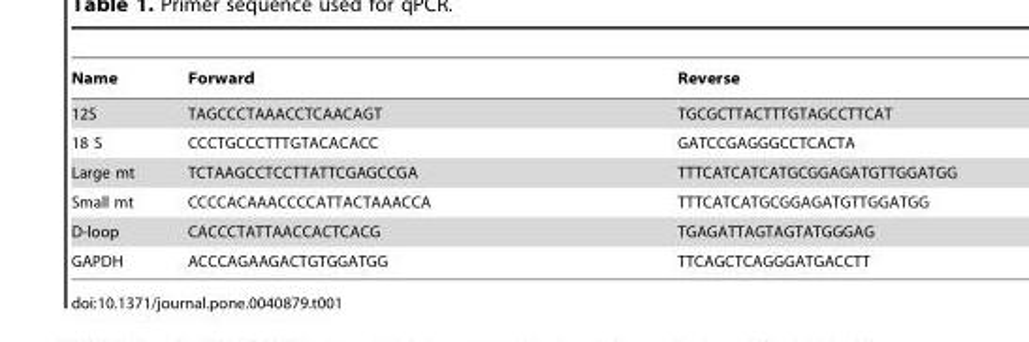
<table><thead><tr><td>Name</td><td>Forward</td><td>Reverse</td></tr></thead><tbody><tr><td>12S</td><td>TAGCCCTAAACCTCAACAGT</td><td>TGCGCTTACTTTGTAGCCTTCAT</td></tr><tr><td>18 S</td><td>CCCTGCCCTTTGTACACACC</td><td>GATCCGAGGGCCTCACTA</td></tr><tr><td>Large mt</td><td>TCTAAGCCTCCTTATTCGAGCCGA</td><td>TTTCATCATCATGCGGAGATGTTGGATGG</td></tr><tr><td>Small mt</td><td>CCCCACAAACCCCATTACTAAACCA</td><td>TTTCATCATGCGGAGATGTTGGATGG</td></tr><tr><td>D-loop</td><td>CACCCTATTAACCACTCACG</td><td>TGAGATTAGTAGTATGGGAG</td></tr><tr><td>GAPDH</td><td>ACCCAGAAGACTGTGGATGG</td><td>TTCAGCTCAGGGATGACCTT</td></tr></tbody></table>